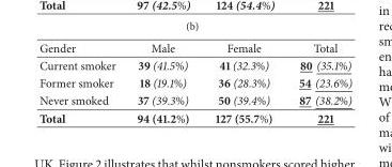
<table><thead><tr><td>Gender</td><td>Male</td><td>Female</td><td>Total</td></tr></thead><tbody><tr><td>Current smoker</td><td>39 (41.5%)</td><td>41 (32.3%)</td><td>80 (35.1%)</td></tr><tr><td>Former smoker</td><td>18 (19.1%)</td><td>36 (28.3%)</td><td>54 (23.6%)</td></tr><tr><td>Never smoked</td><td>37 (39.3%)</td><td>50 (39.4%)</td><td>87 (38.2%)</td></tr><tr><td>Total</td><td>94 (41.2%)</td><td>127 (55.7%)</td><td>221</td></tr></tbody></table>